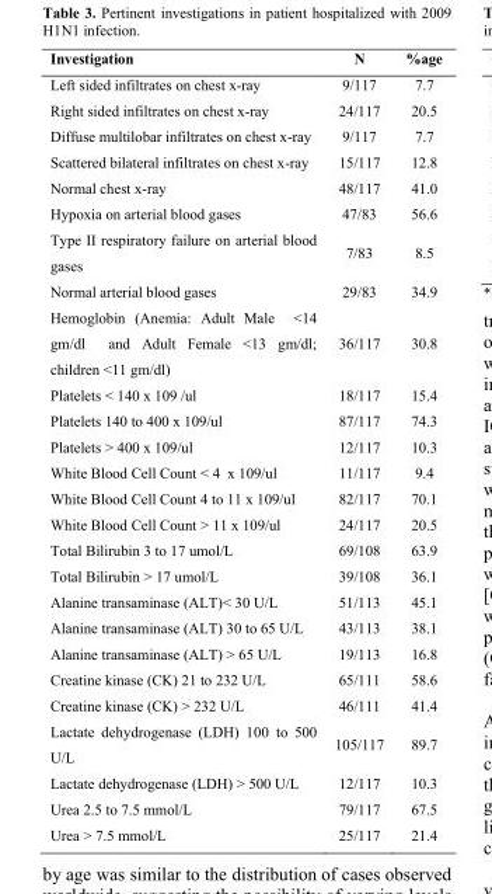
<table><thead><tr><td>Investigation</td><td>N</td><td>%age</td></tr></thead><tbody><tr><td>Left sided infiltrates on chest x-ray</td><td>9/117</td><td>7.7</td></tr><tr><td>Right sided infiltrates on chest x-ray</td><td>24/117</td><td>20.5</td></tr><tr><td>Diffuse multilobar infiltrates on chest x-ray</td><td>9/117</td><td>7.7</td></tr><tr><td>Scattered bilateral infiltrates on chest x-ray</td><td>15/117</td><td>12.8</td></tr><tr><td>Normal chest x-ray</td><td>48/117</td><td>41.0</td></tr><tr><td>Hypoxia on arterial blood gases</td><td>47/83</td><td>56.6</td></tr><tr><td>Type II respiratory failure on arterial blood gases</td><td>7/83</td><td>8.5</td></tr><tr><td>Normal arterial blood gases</td><td>29/83</td><td>34.9</td></tr><tr><td>Hemoglobin (Anemia: Adult Male &lt;14 gm/dl and Adult Female &lt;13 gm/dl; children &lt;11 gm/dl)</td><td>36/117</td><td>30.8</td></tr><tr><td>Platelets &lt; 140 x 109 /ul</td><td>18/117</td><td>15.4</td></tr><tr><td>Platelets 140 to 400 x 109/ul</td><td>87/117</td><td>74.3</td></tr><tr><td>Platelets &gt; 400 x 109/ul</td><td>12/117</td><td>10.3</td></tr><tr><td>White Blood Cell Count &lt; 4 x 109/ul</td><td>11/117</td><td>9.4</td></tr><tr><td>White Blood Cell Count 4 to 11 x 109/ul</td><td>82/117</td><td>70.1</td></tr><tr><td>White Blood Cell Count &gt; 11 x 109/ul</td><td>24/117</td><td>20.5</td></tr><tr><td>Total Bilirubin 3 to 17 umol/L</td><td>69/108</td><td>63.9</td></tr><tr><td>Total Bilirubin &gt; 17 umol/L</td><td>39/108</td><td>36.1</td></tr><tr><td>Alanine transaminase (ALT)&lt; 30 U/L</td><td>51/113</td><td>45.1</td></tr><tr><td>Alanine transaminase (ALT) 30 to 65 U/L</td><td>43/113</td><td>38.1</td></tr><tr><td>Alanine transaminase (ALT) &gt; 65 U/L</td><td>19/113</td><td>16.8</td></tr><tr><td>Creatine kinase (CK) 21 to 232 U/L</td><td>65/111</td><td>58.6</td></tr><tr><td>Creatine kinase (CK) &gt; 232 U/L</td><td>46/111</td><td>41.4</td></tr><tr><td>Lactate dehydrogenase (LDH) 100 to 500 U/L</td><td>105/117</td><td>89.7</td></tr><tr><td>Lactate dehydrogenase (LDH) &gt; 500 U/L</td><td>12/117</td><td>10.3</td></tr><tr><td>Urea 2.5 to 7.5 mmol/L</td><td>79/117</td><td>67.5</td></tr><tr><td>Urea &gt; 7.5 mmol/L</td><td>25/117</td><td>21.4</td></tr></tbody></table>